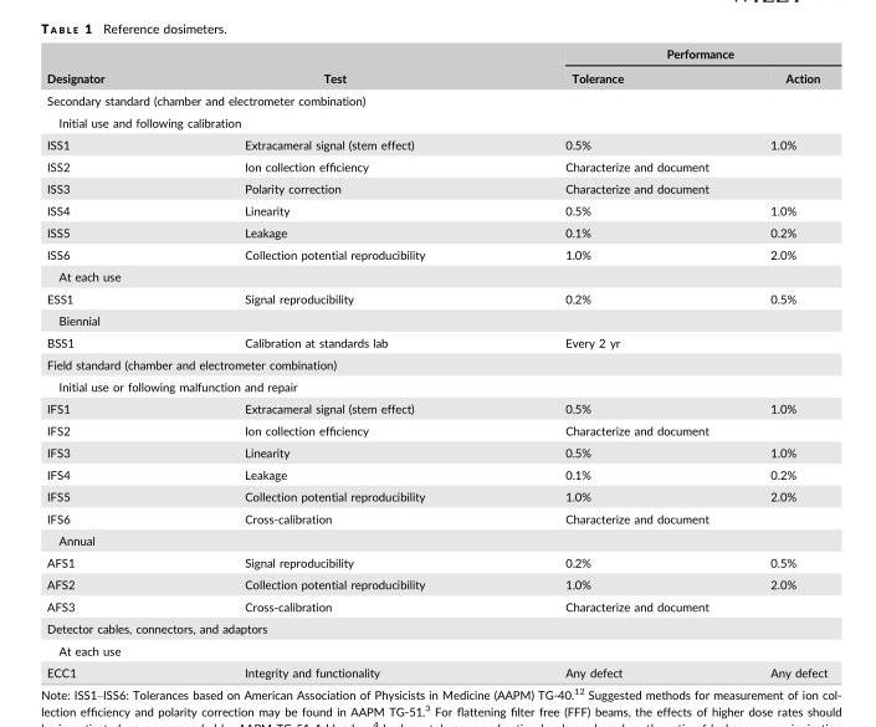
<table><thead><tr><td rowspan="2">Designator</td><td rowspan="2">Test</td><td colspan="2">Performance</td></tr><tr><td>Tolerance</td><td>Action</td></tr></thead><tbody><tr><td colspan="4">Secondary standard (chamber and electrometer combination)</td></tr><tr><td colspan="4">Initial use and following calibration</td></tr><tr><td>ISS1</td><td>Extracameral signal (stem effect)</td><td>0.5%</td><td>1.0%</td></tr><tr><td>ISS2</td><td>Ion collection efficiency</td><td colspan="2">Characterize and document</td></tr><tr><td>ISS3</td><td>Polarity correction</td><td colspan="2">Characterize and document</td></tr><tr><td>ISS4</td><td>Linearity</td><td>0.5%</td><td>1.0%</td></tr><tr><td>ISS5</td><td>Leakage</td><td>0.1%</td><td>0.2%</td></tr><tr><td>ISS6</td><td>Collection potential reproducibility</td><td>1.0%</td><td>2.0%</td></tr><tr><td colspan="4">At each use</td></tr><tr><td>ESS1</td><td>Signal reproducibility</td><td>0.2%</td><td>0.5%</td></tr><tr><td colspan="4">Biennial</td></tr><tr><td>BSS1</td><td>Calibration at standards lab</td><td colspan="2">Every 2 yr</td></tr><tr><td colspan="4">Field standard (chamber and electrometer combination)</td></tr><tr><td colspan="4">Initial use or following malfunction and repair</td></tr><tr><td>IFS1</td><td>Extracameral signal (stem effect)</td><td>0.5%</td><td>1.0%</td></tr><tr><td>IFS2</td><td>Ion collection efficiency</td><td colspan="2">Characterize and document</td></tr><tr><td>IFS3</td><td>Linearity</td><td>0.5%</td><td>1.0%</td></tr><tr><td>IFS4</td><td>Leakage</td><td>0.1%</td><td>0.2%</td></tr><tr><td>IFS5</td><td>Collection potential reproducibility</td><td>1.0%</td><td>2.0%</td></tr><tr><td>IFS6</td><td>Cross-calibration</td><td colspan="2">Characterize and document</td></tr><tr><td colspan="4">Annual</td></tr><tr><td>AFS1</td><td>Signal reproducibility</td><td>0.2%</td><td>0.5%</td></tr><tr><td>AFS2</td><td>Collection potential reproducibility</td><td>1.0%</td><td>2.0%</td></tr><tr><td>AFS3</td><td>Cross-calibration</td><td colspan="2">Characterize and document</td></tr><tr><td colspan="4">Detector cables, connectors, and adaptors</td></tr><tr><td colspan="4">At each use</td></tr><tr><td>ECC1</td><td>Integrity and functionality</td><td>Any defect</td><td>Any defect</td></tr></tbody></table>